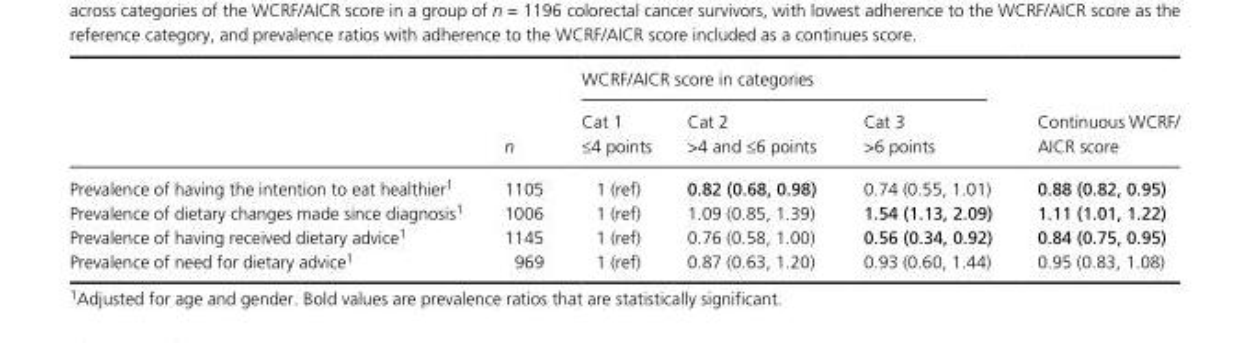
<table><thead><tr><td rowspan="2"></td><td rowspan="2">n</td><td colspan="3">WCRF/AICR score in categories</td><td rowspan="2">Continuous WCRF/ AICR score</td></tr><tr><td>Cat 1 ≤4 points</td><td>Cat 2 &gt;4 and ≤6 points</td><td>Cat 3 &gt;6 points</td></tr></thead><tbody><tr><td>Prevalence of having the intention to eat healthier1</td><td>1105</td><td>1 (ref)</td><td>0.82 (0.68, 0.98)</td><td>0.74 (0.55, 1.01)</td><td>0.88 (0.82, 0.95)</td></tr><tr><td>Prevalence of dietary changes made since diagnosis1</td><td>1006</td><td>1 (ref)</td><td>1.09 (0.85, 1.39)</td><td>1.54 (1.13, 2.09)</td><td>1.11 (1.01, 1.22)</td></tr><tr><td>Prevalence of having received dietary advice1</td><td>1145</td><td>1 (ref)</td><td>0.76 (0.58, 1.00)</td><td>0.56 (0.34, 0.92)</td><td>0.84 (0.75, 0.95)</td></tr><tr><td>Prevalence of need for dietary advice1</td><td>969</td><td>1 (ref)</td><td>0.87 (0.63, 1.20)</td><td>0.93 (0.60, 1.44)</td><td>0.95 (0.83, 1.08)</td></tr></tbody></table>